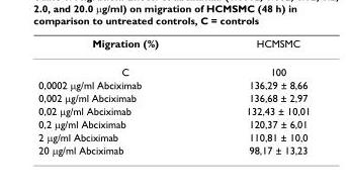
<table><thead><tr><td>Migration (%)</td><td>HCMSMC</td></tr></thead><tbody><tr><td>C</td><td>100</td></tr><tr><td>0,0002 μg/ml Abciximab</td><td>136,29 ± 8,66</td></tr><tr><td>0,002 μg/ml Abciximab</td><td>136,68 ± 2,97</td></tr><tr><td>0,02 μg/ml Abciximab</td><td>132,43 ± 10,01</td></tr><tr><td>0,2 μg/ml Abciximab</td><td>120,37 ± 6,01</td></tr><tr><td>2 μg/ml Abciximab</td><td>110,81 ± 10,0</td></tr><tr><td>20 μg/ml Abciximab</td><td>98,17 ± 13,23</td></tr></tbody></table>